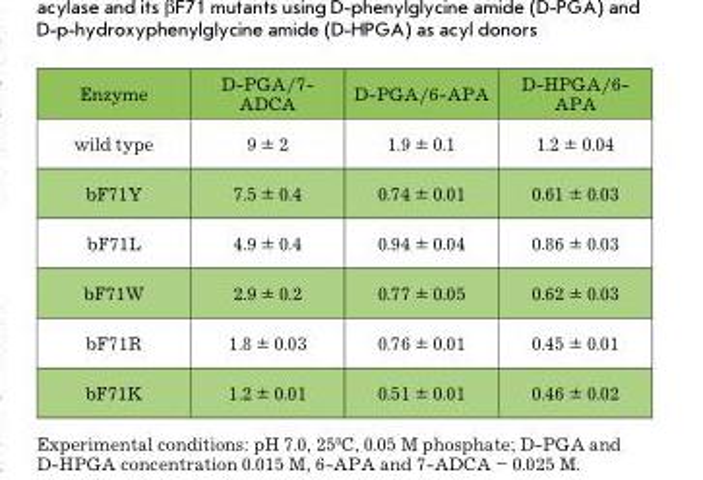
<table><thead><tr><td>enzyme</td><td>D-PGA/7- ADcA</td><td>D-PGA/6-APA</td><td>D-HPGA/6- APA</td></tr></thead><tbody><tr><td>wild type</td><td>9 ± 2</td><td>1.9 ± 0.1</td><td>1.2 ± 0.04</td></tr><tr><td>bF71Y</td><td>7.5 ± 0.4</td><td>0.74 ± 0.01</td><td>0.61 ± 0.03</td></tr><tr><td>bF71L</td><td>4.9 ± 0.4</td><td>0.94 ± 0.04</td><td>0.86 ± 0.03</td></tr><tr><td>bF71W</td><td>2.9 ± 0.2</td><td>0.77 ± 0.05</td><td>0.62 ± 0.03</td></tr><tr><td>bF71r</td><td>1.8 ± 0.03</td><td>0.76 ± 0.01</td><td>0.45 ± 0.01</td></tr><tr><td>bF71K</td><td>1.2 ± 0.01</td><td>0.51 ± 0.01</td><td>0.46 ± 0.02</td></tr></tbody></table>